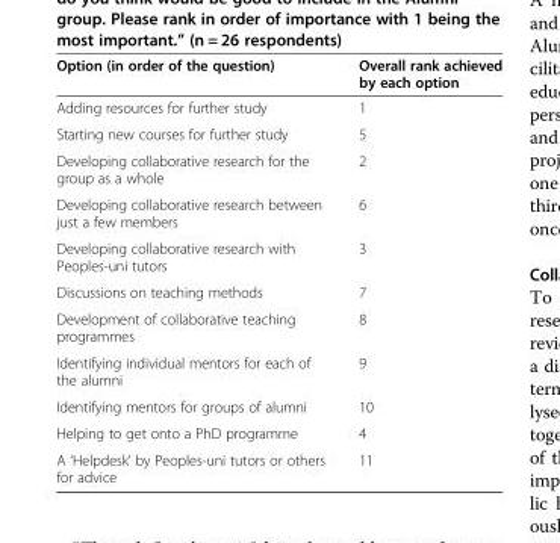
<table><thead><tr><td>Option (in order of the question)</td><td>Overall rank achieved by each option</td></tr></thead><tbody><tr><td>Adding resources for further study</td><td>1</td></tr><tr><td>Starting new courses for further study</td><td>5</td></tr><tr><td>Developing collaborative research for the group as a whole</td><td>2</td></tr><tr><td>Developing collaborative research between just a few members</td><td>6</td></tr><tr><td>Developing collaborative research with Peoples-uni tutors</td><td>3</td></tr><tr><td>Discussions on teaching methods</td><td>7</td></tr><tr><td>Development of collaborative teaching programmes</td><td>8</td></tr><tr><td>Identifying individual mentors for each of the alumni</td><td>9</td></tr><tr><td>Identifying mentors for groups of alumni</td><td>10</td></tr><tr><td>Helping to get onto a PhD programme</td><td>4</td></tr><tr><td>A ‘Helpdesk’ by Peoples-uni tutors or others for advice</td><td>11</td></tr></tbody></table>